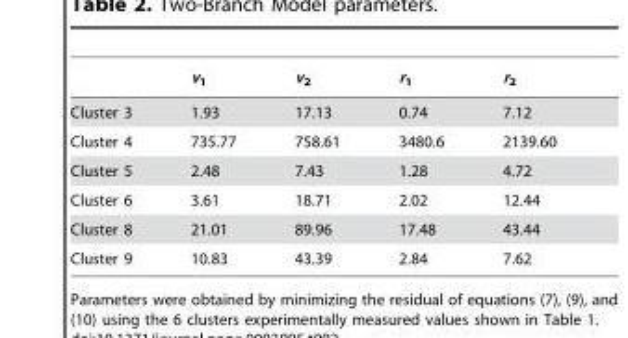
<table><thead><tr><td></td><td>v<sub>1</sub></td><td>v<sub>2</sub></td><td>r<sub>1</sub></td><td>r<sub>2</sub></td></tr></thead><tbody><tr><td>Cluster 3</td><td>1.93</td><td>17.13</td><td>0.74</td><td>7.12</td></tr><tr><td>Cluster 4</td><td>735.77</td><td>758.61</td><td>3480.6</td><td>2139.60</td></tr><tr><td>Cluster 5</td><td>2.48</td><td>7.43</td><td>1.28</td><td>4.72</td></tr><tr><td>Cluster 6</td><td>3.61</td><td>18.71</td><td>2.02</td><td>12.44</td></tr><tr><td>Cluster 8</td><td>21.01</td><td>89.96</td><td>17.48</td><td>43.44</td></tr><tr><td>Cluster 9</td><td>10.83</td><td>43.39</td><td>2.84</td><td>7.62</td></tr></tbody></table>